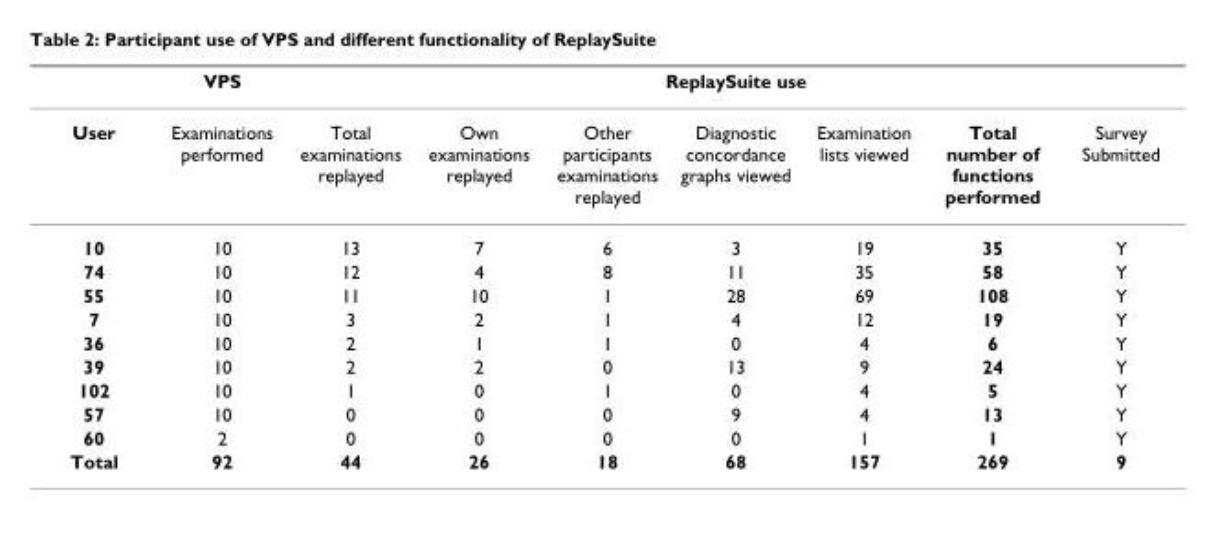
<table><thead><tr><td rowspan="2">User</td><td rowspan="2">VPS Examinations performed</td><td colspan="7">ReplaySuite use</td></tr><tr><td>Total examinations replayed</td><td>Own examinations replayed</td><td>Other participants examinations replayed</td><td>Diagnostic concordance graphs viewed</td><td>Examination lists viewed</td><td>Total number of functions performed</td><td>Survey Submitted</td></tr></thead><tbody><tr><td>10</td><td>10</td><td>13</td><td>7</td><td>6</td><td>3</td><td>19</td><td>35</td><td>Y</td></tr><tr><td>74</td><td>10</td><td>12</td><td>4</td><td>8</td><td>11</td><td>35</td><td>58</td><td>Y</td></tr><tr><td>55</td><td>10</td><td>11</td><td>10</td><td>1</td><td>28</td><td>69</td><td>108</td><td>Y</td></tr><tr><td>7</td><td>10</td><td>3</td><td>2</td><td>1</td><td>4</td><td>12</td><td>19</td><td>Y</td></tr><tr><td>36</td><td>10</td><td>2</td><td>1</td><td>1</td><td>0</td><td>4</td><td>6</td><td>Y</td></tr><tr><td>39</td><td>10</td><td>2</td><td>2</td><td>0</td><td>13</td><td>9</td><td>24</td><td>Y</td></tr><tr><td>102</td><td>10</td><td>1</td><td>0</td><td>1</td><td>0</td><td>4</td><td>5</td><td>Y</td></tr><tr><td>57</td><td>10</td><td>0</td><td>0</td><td>0</td><td>9</td><td>4</td><td>13</td><td>Y</td></tr><tr><td>60</td><td>2</td><td>0</td><td>0</td><td>0</td><td>0</td><td>1</td><td>1</td><td>Y</td></tr><tr><td>Total</td><td>92</td><td>44</td><td>26</td><td>18</td><td>68</td><td>157</td><td>269</td><td>9</td></tr></tbody></table>